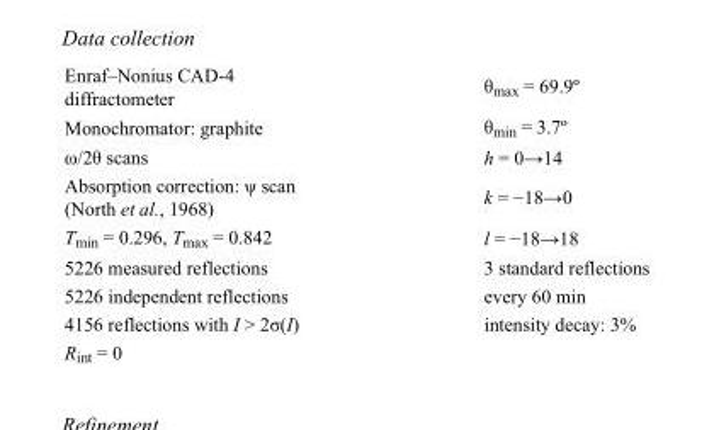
<table><tbody><tr><td>Enraf–Nonius CAD-4 diffractometer</td><td>θ<sub>max</sub> = 69.9º</td></tr><tr><td>Monochromator: graphite</td><td>θ<sub>min</sub> = 3.7º</td></tr><tr><td>ω/2θ scans</td><td>h = 0→14</td></tr><tr><td>Absorption correction: ψ scan (North et al., 1968)</td><td>k = −18→0</td></tr><tr><td>T<sub>min</sub> = 0.296, T<sub>max</sub> = 0.842</td><td>l = −18→18</td></tr><tr><td>5226 measured reflections</td><td>3 standard reflections</td></tr><tr><td>5226 independent reflections</td><td>every 60 min</td></tr><tr><td>4156 reflections with I &gt; 2σ(I)</td><td>intensity decay: 3%</td></tr><tr><td>R<sub>int</sub> = 0</td><td></td></tr></tbody></table>